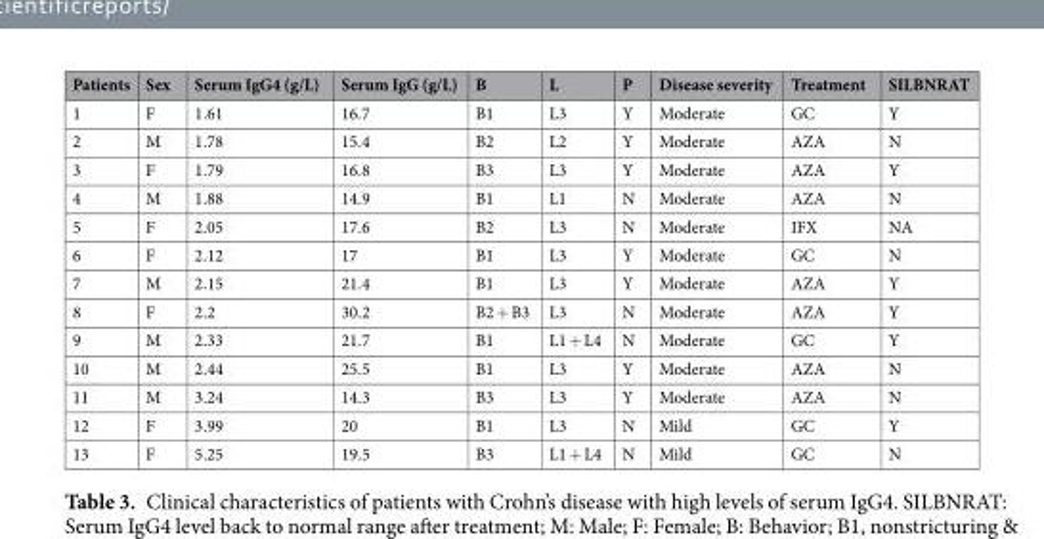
<table><thead><tr><td>Patients</td><td>Sex</td><td>Serum IgG4 (g/L)</td><td>Serum IgG (g/L)</td><td>B</td><td>L</td><td>P</td><td>Disease severity</td><td>Treatment</td><td>SILBNRAT</td></tr></thead><tbody><tr><td>1</td><td>F</td><td>1.61</td><td>16.7</td><td>B1</td><td>L3</td><td>Y</td><td>Moderate</td><td>GC</td><td>Y</td></tr><tr><td>2</td><td>M</td><td>1.78</td><td>15.4</td><td>B2</td><td>L2</td><td>Y</td><td>Moderate</td><td>AZA</td><td>N</td></tr><tr><td>3</td><td>F</td><td>1.79</td><td>16.8</td><td>B3</td><td>L3</td><td>Y</td><td>Moderate</td><td>AZA</td><td>Y</td></tr><tr><td>4</td><td>M</td><td>1.88</td><td>14.9</td><td>B1</td><td>L1</td><td>N</td><td>Moderate</td><td>AZA</td><td>N</td></tr><tr><td>5</td><td>F</td><td>2.05</td><td>17.6</td><td>B2</td><td>L3</td><td>N</td><td>Moderate</td><td>IFX</td><td>NA</td></tr><tr><td>6</td><td>F</td><td>2.12</td><td>17</td><td>B1</td><td>L3</td><td>Y</td><td>Moderate</td><td>GC</td><td>N</td></tr><tr><td>7</td><td>M</td><td>2.15</td><td>21.4</td><td>B1</td><td>L3</td><td>Y</td><td>Moderate</td><td>AZA</td><td>Y</td></tr><tr><td>8</td><td>F</td><td>2.2</td><td>30.2</td><td>B2 + B3</td><td>L3</td><td>N</td><td>Moderate</td><td>AZA</td><td>Y</td></tr><tr><td>9</td><td>M</td><td>2.33</td><td>21.7</td><td>B1</td><td>L1 + L4</td><td>N</td><td>Moderate</td><td>GC</td><td>Y</td></tr><tr><td>10</td><td>M</td><td>2.44</td><td>25.5</td><td>B1</td><td>L3</td><td>Y</td><td>Moderate</td><td>AZA</td><td>N</td></tr><tr><td>11</td><td>M</td><td>3.24</td><td>14.3</td><td>B3</td><td>L3</td><td>Y</td><td>Moderate</td><td>AZA</td><td>N</td></tr><tr><td>12</td><td>F</td><td>3.99</td><td>20</td><td>B1</td><td>L3</td><td>N</td><td>Mild</td><td>GC</td><td>Y</td></tr><tr><td>13</td><td>F</td><td>5.25</td><td>19.5</td><td>B3</td><td>L1 + L4</td><td>N</td><td>Mild</td><td>GC</td><td>N</td></tr></tbody></table>